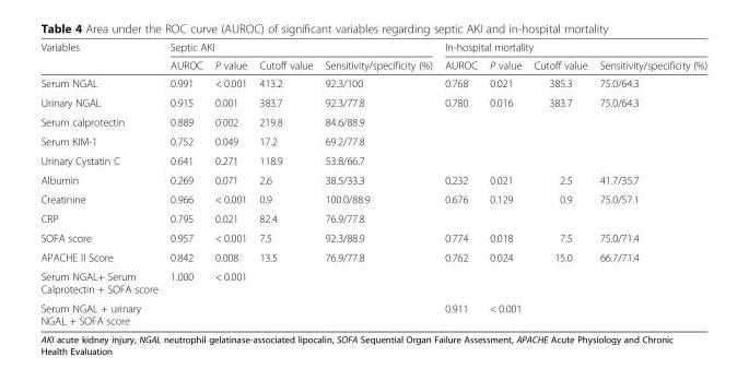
<table><thead><tr><td rowspan="2">Variables</td><td colspan="4">Septic AKI</td><td colspan="4">In-hospital mortality</td></tr><tr><td>AUROC</td><td>P value</td><td>Cutoff value</td><td>Sensitivity/specificity (%)</td><td>AUROC</td><td>P value</td><td>Cutoff value</td><td>Sensitivity/specificity (%)</td></tr></thead><tbody><tr><td>Serum NGAL</td><td>0.991</td><td>&lt; 0.001</td><td>413.2</td><td>92.3/100</td><td>0.768</td><td>0.021</td><td>385.3</td><td>75.0/64.3</td></tr><tr><td>Urinary NGAL</td><td>0.915</td><td>0.001</td><td>383.7</td><td>92.3/77.8</td><td>0.780</td><td>0.016</td><td>383.7</td><td>75.0/64.3</td></tr><tr><td>Serum calprotectin</td><td>0.889</td><td>0.002</td><td>219.8</td><td>84.6/88.9</td><td></td><td></td><td colspan="2"></td></tr><tr><td>Serum KIM-1</td><td>0.752</td><td>0.049</td><td>17.2</td><td>69.2/77.8</td><td></td><td></td><td colspan="2"></td></tr><tr><td>Urinary Cystatin C</td><td>0.641</td><td>0.271</td><td>118.9</td><td>53.8/66.7</td><td></td><td></td><td colspan="2"></td></tr><tr><td>Albumin</td><td>0.269</td><td>0.071</td><td>2.6</td><td>38.5/33.3</td><td>0.232</td><td>0.021</td><td>2.5</td><td>41.7/35.7</td></tr><tr><td>Creatinine</td><td>0.966</td><td>&lt; 0.001</td><td>0.9</td><td>100.0/88.9</td><td>0.676</td><td>0.129</td><td>0.9</td><td>75.0/57.1</td></tr><tr><td>CRP</td><td>0.795</td><td>0.021</td><td>82.4</td><td>76.9/77.8</td><td></td><td></td><td colspan="2"></td></tr><tr><td>SOFA score</td><td>0.957</td><td>&lt; 0.001</td><td>7.5</td><td>92.3/88.9</td><td>0.774</td><td>0.018</td><td>7.5</td><td>75.0/71.4</td></tr><tr><td>APACHE II Score</td><td>0.842</td><td>0.008</td><td>13.5</td><td>76.9/77.8</td><td>0.762</td><td>0.024</td><td>15.0</td><td>66.7/71.4</td></tr><tr><td>Serum NGAL+ Serum Calprotectin + SOFA score</td><td>1.000</td><td>&lt; 0.001</td><td></td><td></td><td></td><td></td><td colspan="2"></td></tr><tr><td>Serum NGAL + urinary NGAL + SOFA score</td><td></td><td></td><td></td><td></td><td>0.911</td><td>&lt; 0.001</td><td colspan="2"></td></tr></tbody></table>